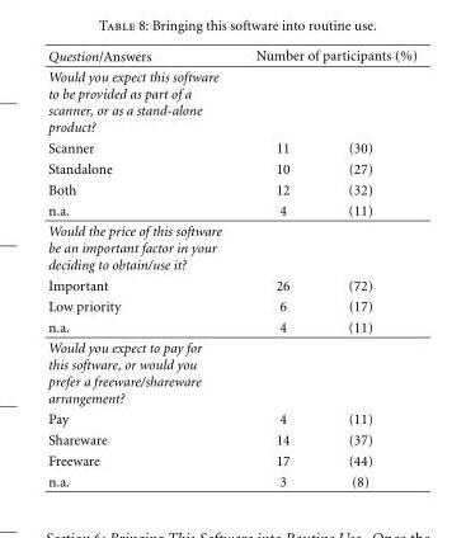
<table><thead><tr><td rowspan="3">Question/Answers Would you expect this software to be provided as part of a scanner, or as a stand-alone product? Scanner</td><td rowspan="2" colspan="2">Number of participants (%)</td></tr><tr></tr><tr><td>11</td><td>(30)</td></tr></thead><tbody><tr><td>Standalone</td><td>10</td><td>(27)</td></tr><tr><td>Both</td><td>12</td><td>(32)</td></tr><tr><td>n.a.</td><td>4</td><td>(11)</td></tr><tr><td colspan="3">Would the price of this software be an important factor in your deciding to obtain/use it?</td></tr><tr><td>Important</td><td>26</td><td>(72)</td></tr><tr><td>Low priority</td><td>6</td><td>(17)</td></tr><tr><td>n.a.</td><td>4</td><td>(11)</td></tr><tr><td colspan="3">Would you expect to pay for this software, or would you prefer a freeware/shareware arrangement?</td></tr><tr><td>Pay</td><td>4</td><td>(11)</td></tr><tr><td>Shareware</td><td>14</td><td>(37)</td></tr><tr><td>Freeware</td><td>17</td><td>(44)</td></tr><tr><td>n.a.</td><td>3</td><td>(8)</td></tr></tbody></table>